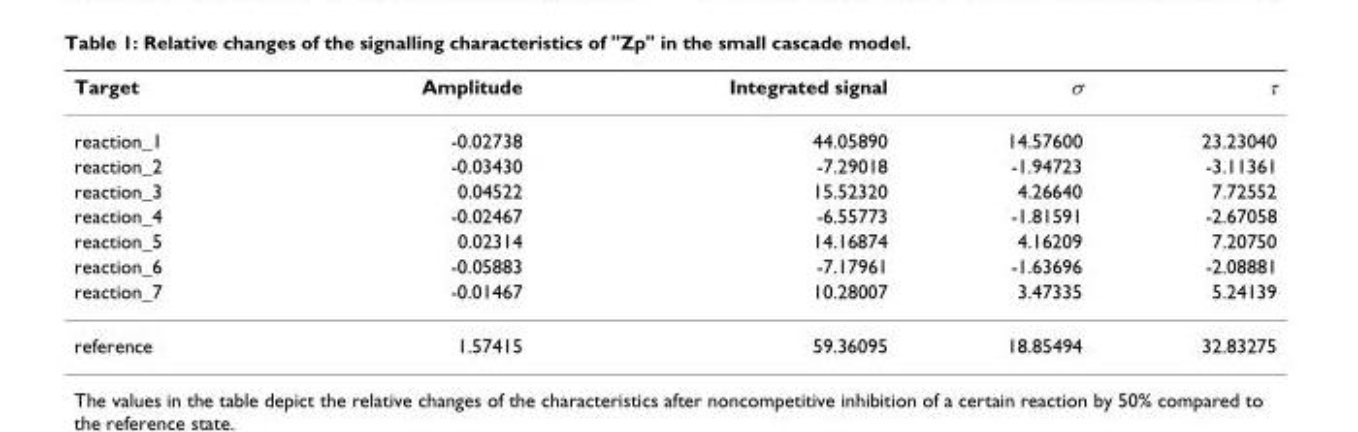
<table><thead><tr><td>Target</td><td>Amplitude</td><td>Integrated signal</td><td>σ</td><td>τ</td></tr></thead><tbody><tr><td>reaction_1</td><td>-0.02738</td><td>44.05890</td><td>14.57600</td><td>23.23040</td></tr><tr><td>reaction_2</td><td>-0.03430</td><td>-7.29018</td><td>-1.94723</td><td>-3.11361</td></tr><tr><td>reaction_3</td><td>0.04522</td><td>15.52320</td><td>4.26640</td><td>7.72552</td></tr><tr><td>reaction_4</td><td>-0.02467</td><td>-6.55773</td><td>-1.81591</td><td>-2.67058</td></tr><tr><td>reaction_5</td><td>0.02314</td><td>14.16874</td><td>4.16209</td><td>7.20750</td></tr><tr><td>reaction_6</td><td>-0.05883</td><td>-7.17961</td><td>-1.63696</td><td>-2.08881</td></tr><tr><td>reaction_7</td><td>-0.01467</td><td>10.28007</td><td>3.47335</td><td>5.24139</td></tr><tr><td>reference</td><td>1.57415</td><td>59.36095</td><td>18.85494</td><td>32.83275</td></tr></tbody></table>